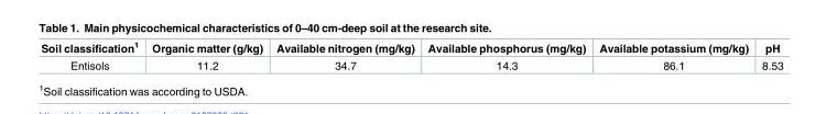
<table><thead><tr><td>Soil classification<sup>1</sup></td><td>Organic matter (g/kg)</td><td>Available nitrogen (mg/kg)</td><td>Available phosphorus (mg/kg)</td><td>Available potassium (mg/kg)</td><td>pH</td></tr></thead><tbody><tr><td>Entisols</td><td>11.2</td><td>34.7</td><td>14.3</td><td>86.1</td><td>8.53</td></tr></tbody></table>